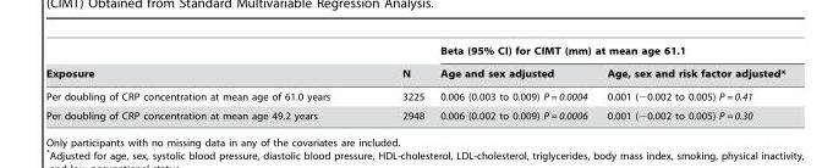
<table><thead><tr><td rowspan="2">Exposure</td><td rowspan="2">N</td><td colspan="2">Beta (95% CI) for CIMT (mm) at mean age 61.1</td></tr><tr><td>Age and sex adjusted</td><td>Age, sex and risk factor adjusted*</td></tr></thead><tbody><tr><td>Per doubling of CRP concentration at mean age of 61.0 years</td><td>3225</td><td>0.006 (0.003 to 0.009) P = 0.0004</td><td>0.001 (−0.002 to 0.005) P = 0.41</td></tr><tr><td>Per doubling of CRP concentration at mean age 49.2 years</td><td>2948</td><td>0.006 (0.002 to 0.009) P = 0.0006</td><td>0.001 (−0.002 to 0.005) P = 0.30</td></tr></tbody></table>